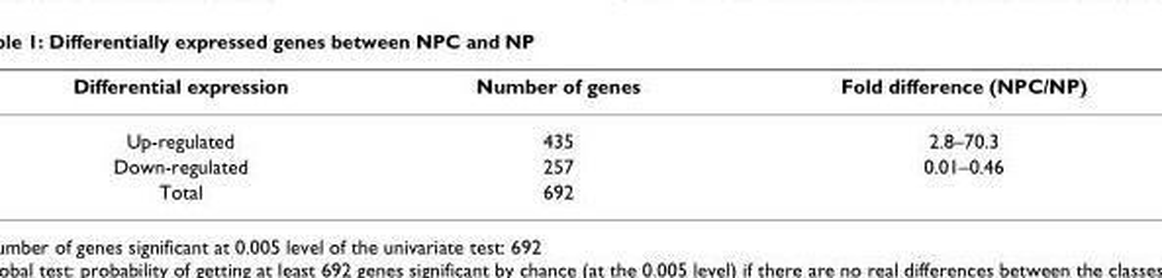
<table><thead><tr><td>Differential expression</td><td>Number of genes</td><td>Fold difference (NPC/NP)</td></tr></thead><tbody><tr><td>Up-regulated</td><td>435</td><td>2.8–70.3</td></tr><tr><td>Down-regulated</td><td>257</td><td>0.01–0.46</td></tr><tr><td>Total</td><td>692</td><td></td></tr></tbody></table>